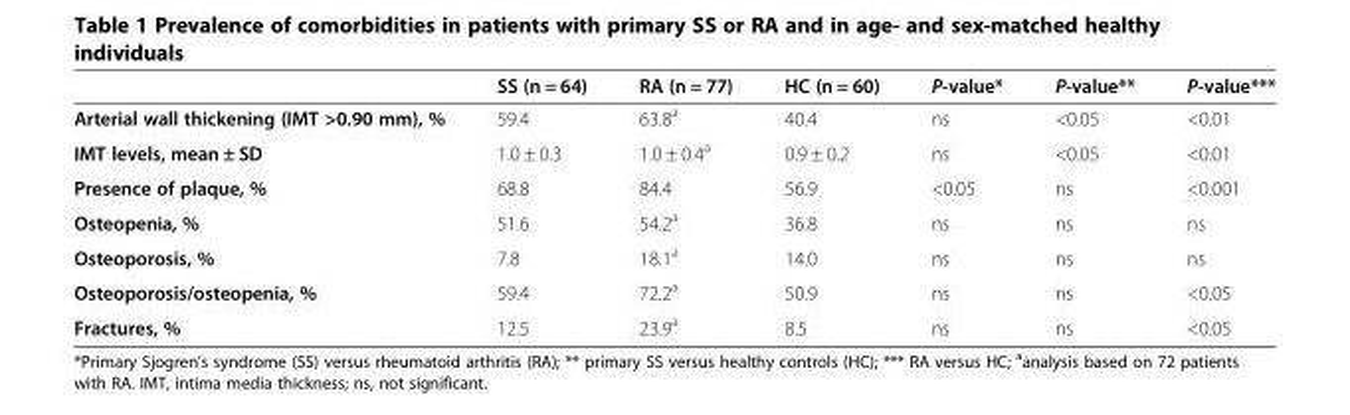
<table><thead><tr><td></td><td>SS (n = 64)</td><td>RA (n = 77)</td><td>HC (n = 60)</td><td>P-value*</td><td>P-value**</td><td>P-value***</td></tr></thead><tbody><tr><td>Arterial wall thickening (IMT &gt;0.90 mm), %</td><td>59.4</td><td>63.8<sup>a</sup></td><td>40.4</td><td>ns</td><td>&lt;0.05</td><td>&lt;0.01</td></tr><tr><td>IMT levels, mean ± SD</td><td>1.0 ± 0.3</td><td>1.0 ± 0.4<sup>a</sup></td><td>0.9 ± 0.2</td><td>ns</td><td>&lt;0.05</td><td>&lt;0.01</td></tr><tr><td>Presence of plaque, %</td><td>68.8</td><td>84.4</td><td>56.9</td><td>&lt;0.05</td><td>ns</td><td>&lt;0.001</td></tr><tr><td>Osteopenia, %</td><td>51.6</td><td>54.2<sup>a</sup></td><td>36.8</td><td>ns</td><td>ns</td><td>ns</td></tr><tr><td>Osteoporosis, %</td><td>7.8</td><td>18.1<sup>a</sup></td><td>14.0</td><td>ns</td><td>ns</td><td>ns</td></tr><tr><td>Osteoporosis/osteopenia, %</td><td>59.4</td><td>72.2<sup>a</sup></td><td>50.9</td><td>ns</td><td>ns</td><td>&lt;0.05</td></tr><tr><td>Fractures, %</td><td>12.5</td><td>23.9<sup>a</sup></td><td>8.5</td><td>ns</td><td>ns</td><td>&lt;0.05</td></tr></tbody></table>